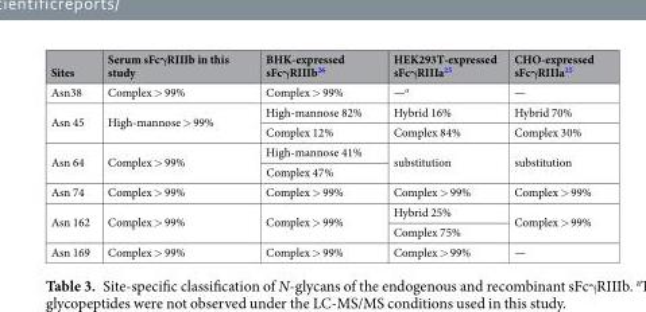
<table><thead><tr><td>Sites</td><td>Serum sFcγRIIIb in this study</td><td>BHK-expressed sFcγRIIIb<sup>26</sup></td><td>HEK293T-expressed sFcγRIIIa<sup>25</sup></td><td>CHO-expressed sFcγRIIIa<sup>25</sup></td></tr></thead><tbody><tr><td>Asn38</td><td>Complex &gt; 99%</td><td>Complex &gt; 99%</td><td>—<sup>a</sup></td><td>—</td></tr><tr><td rowspan="2">Asn 45</td><td rowspan="2">High-mannose &gt; 99%</td><td>High-mannose 82%</td><td>Hybrid 16%</td><td>Hybrid 70%</td></tr><tr><td>Complex 12%</td><td>Complex 84%</td><td>Complex 30%</td></tr><tr><td rowspan="2">Asn 64</td><td rowspan="2">Complex &gt; 99%</td><td>High-mannose 41%</td><td rowspan="2">substitution</td><td rowspan="2">substitution</td></tr><tr><td>Complex 47%</td></tr><tr><td>Asn 74</td><td>Complex &gt; 99%</td><td>Complex &gt; 99%</td><td>Complex &gt; 99%</td><td>Complex &gt; 99%</td></tr><tr><td rowspan="2">Asn 162</td><td rowspan="2">Complex &gt; 99%</td><td rowspan="2">Complex &gt; 99%</td><td>Hybrid 25%</td><td rowspan="2">Complex &gt; 99%</td></tr><tr><td>Complex 75%</td></tr><tr><td>Asn 169</td><td>Complex &gt; 99%</td><td>Complex &gt; 99%</td><td>Complex &gt; 99%</td><td>—</td></tr></tbody></table>